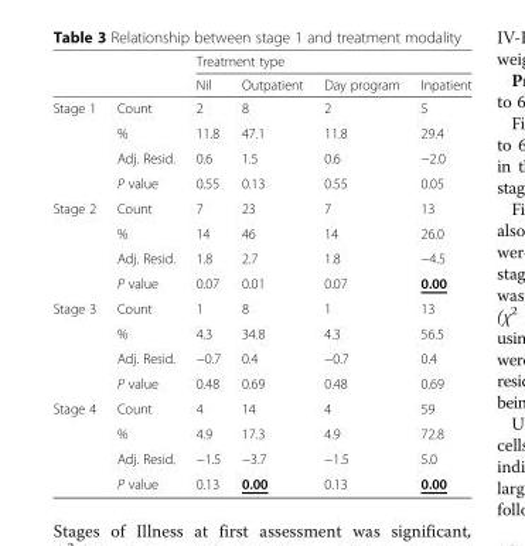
<table><thead><tr><td rowspan="2"></td><td rowspan="2"></td><td colspan="4">Treatment type</td></tr><tr><td>Nil</td><td>Outpatient</td><td>Day program</td><td>Inpatient</td></tr></thead><tbody><tr><td rowspan="4">Stage 1</td><td>Count</td><td>2</td><td>8</td><td>2</td><td>5</td></tr><tr><td>%</td><td>11.8</td><td>47.1</td><td>11.8</td><td>29.4</td></tr><tr><td>Adj. Resid.</td><td>0.6</td><td>1.5</td><td>0.6</td><td>−2.0</td></tr><tr><td>P value</td><td>0.55</td><td>0.13</td><td>0.55</td><td>0.05</td></tr><tr><td rowspan="4">Stage 2</td><td>Count</td><td>7</td><td>23</td><td>7</td><td>13</td></tr><tr><td>%</td><td>14</td><td>46</td><td>14</td><td>26.0</td></tr><tr><td>Adj. Resid.</td><td>1.8</td><td>2.7</td><td>1.8</td><td>−4.5</td></tr><tr><td>P value</td><td>0.07</td><td>0.01</td><td>0.07</td><td>0.00</td></tr><tr><td rowspan="4">Stage 3</td><td>Count</td><td>1</td><td>8</td><td>1</td><td>13</td></tr><tr><td>%</td><td>4.3</td><td>34.8</td><td>4.3</td><td>56.5</td></tr><tr><td>Adj. Resid.</td><td>−0.7</td><td>0.4</td><td>−0.7</td><td>0.4</td></tr><tr><td>P value</td><td>0.48</td><td>0.69</td><td>0.48</td><td>0.69</td></tr><tr><td rowspan="4">Stage 4</td><td>Count</td><td>4</td><td>14</td><td>4</td><td>59</td></tr><tr><td>%</td><td>4.9</td><td>17.3</td><td>4.9</td><td>72.8</td></tr><tr><td>Adj. Resid.</td><td>−1.5</td><td>−3.7</td><td>−1.5</td><td>5.0</td></tr><tr><td>P value</td><td>0.13</td><td>0.00</td><td>0.13</td><td>0.00</td></tr></tbody></table>